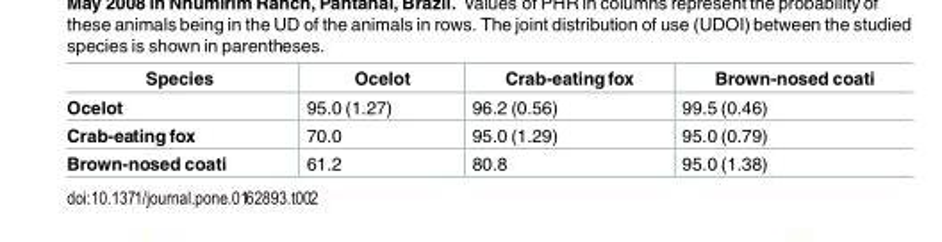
<table><thead><tr><td>Species</td><td>Ocelot</td><td>Crab-eatingfox</td><td>Brown-nosed coati</td></tr></thead><tbody><tr><td>Ocelot</td><td>95.0 (1.27)</td><td>96.2 (0.56)</td><td>99.5 (0.46)</td></tr><tr><td>Crab-eating fox</td><td>70.0</td><td>95.0 (1.29)</td><td>95.0 (0.79)</td></tr><tr><td>Brown-nosed coati</td><td>61.2</td><td>80.8</td><td>95.0 (1.38)</td></tr></tbody></table>